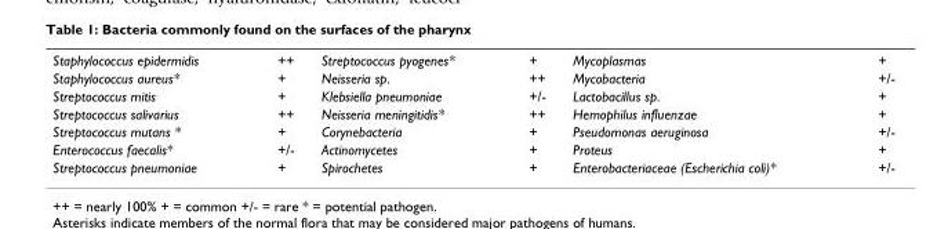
<table><tbody><tr><td>Staphylococcus epidermidis</td><td>++</td><td>Streptococcus pyogenes*</td><td>+</td><td>Mycoplasmas</td><td>+</td></tr><tr><td>Staphylococcus aureus*</td><td>+</td><td>Neisseria sp.</td><td>++</td><td>Mycobacteria</td><td>+/-</td></tr><tr><td>Streptococcus mitis</td><td>+</td><td>Klebsiella pneumoniae</td><td>+/-</td><td>Lactobacillus sp.</td><td>+</td></tr><tr><td>Streptococcus salivarius</td><td>++</td><td>Neisseria meningitidis*</td><td>++</td><td>Hemophilus influenzae</td><td>+</td></tr><tr><td>Streptococcus mutans *</td><td>+</td><td>Corynebacteria</td><td>+</td><td>Pseudomonas aeruginosa</td><td>+/-</td></tr><tr><td>Enterococcus faecalis*</td><td>+/-</td><td>Actinomycetes</td><td>+</td><td>Proteus</td><td>+</td></tr><tr><td>Streptococcus pneumoniae</td><td>+</td><td>Spirochetes</td><td>+</td><td>Enterobacteriaceae (Escherichia coli)*</td><td>+/-</td></tr></tbody></table>